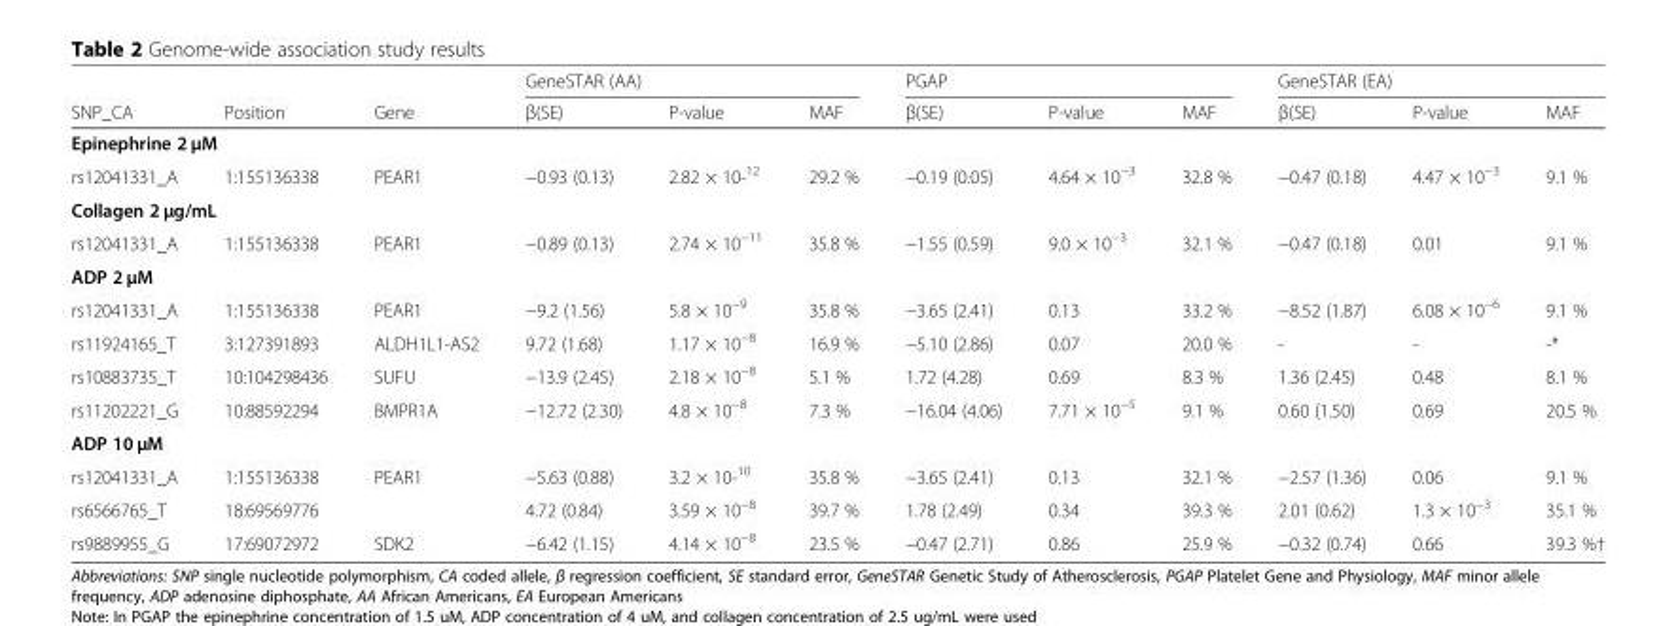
<table><thead><tr><td rowspan="2">SNP_CA</td><td rowspan="2">Position</td><td rowspan="2">Gene</td><td colspan="3">GeneSTAR (AA)</td><td colspan="3">PGAP</td><td colspan="3">GeneSTAR (EA)</td></tr><tr><td>β(SE)</td><td>P-value</td><td>MAF</td><td>β(SE)</td><td>P-value</td><td>MAF</td><td>β(SE)</td><td>P-value</td><td>MAF</td></tr></thead><tbody><tr><td colspan="12">Epinephrine 2 μM</td></tr><tr><td>rs12041331_A</td><td>1:155136338</td><td>PEAR1</td><td>−0.93 (0.13)</td><td>2.82 × 10-<sup>12</sup></td><td>29.2 %</td><td>−0.19 (0.05)</td><td>4.64 × 10<sup>−3</sup></td><td>32.8 %</td><td>−0.47 (0.18)</td><td>4.47 × 10<sup>−3</sup></td><td>9.1 %</td></tr><tr><td colspan="12">Collagen 2 μg/mL</td></tr><tr><td>rs12041331_A</td><td>1:155136338</td><td>PEAR1</td><td>−0.89 (0.13)</td><td>2.74 × 10<sup>−11</sup></td><td>35.8 %</td><td>−1.55 (0.59)</td><td>9.0 × 10<sup>−3</sup></td><td>32.1 %</td><td>−0.47 (0.18)</td><td>0.01</td><td>9.1 %</td></tr><tr><td colspan="12">ADP 2 μM</td></tr><tr><td>rs12041331_A</td><td>1:155136338</td><td>PEAR1</td><td>−9.2 (1.56)</td><td>5.8 × 10<sup>−9</sup></td><td>35.8 %</td><td>−3.65 (2.41)</td><td>0.13</td><td>33.2 %</td><td>−8.52 (1.87)</td><td>6.08 × 10<sup>−6</sup></td><td>9.1 %</td></tr><tr><td>rs11924165_T</td><td>3:127391893</td><td>ALDH1L1-AS2</td><td>9.72 (1.68)</td><td>1.17 × 10<sup>−8</sup></td><td>16.9 %</td><td>−5.10 (2.86)</td><td>0.07</td><td>20.0 %</td><td>-</td><td>-</td><td>-*</td></tr><tr><td>rs10883735_T</td><td>10:104298436</td><td>SUFU</td><td>−13.9 (2.45)</td><td>2.18 × 10<sup>−8</sup></td><td>5.1 %</td><td>1.72 (4.28)</td><td>0.69</td><td>8.3 %</td><td>1.36 (2.45)</td><td>0.48</td><td>8.1 %</td></tr><tr><td>rs11202221_G</td><td>10:88592294</td><td>BMPR1A</td><td>−12.72 (2.30)</td><td>4.8 × 10<sup>−8</sup></td><td>7.3 %</td><td>−16.04 (4.06)</td><td>7.71 × 10<sup>−5</sup></td><td>9.1 %</td><td>0.60 (1.50)</td><td>0.69</td><td>20.5 %</td></tr><tr><td colspan="12">ADP 10 μM</td></tr><tr><td>rs12041331_A</td><td>1:155136338</td><td>PEAR1</td><td>−5.63 (0.88)</td><td>3.2 × 10-<sup>10</sup></td><td>35.8 %</td><td>−3.65 (2.41)</td><td>0.13</td><td>32.1 %</td><td>−2.57 (1.36)</td><td>0.06</td><td>9.1 %</td></tr><tr><td>rs6566765_T</td><td>18:69569776</td><td></td><td>4.72 (0.84)</td><td>3.59 × 10<sup>−8</sup></td><td>39.7 %</td><td>1.78 (2.49)</td><td>0.34</td><td>39.3 %</td><td>2.01 (0.62)</td><td>1.3 × 10<sup>−3</sup></td><td>35.1 %</td></tr><tr><td>rs9889955_G</td><td>17:69072972</td><td>SDK2</td><td>−6.42 (1.15)</td><td>4.14 × 10<sup>−8</sup></td><td>23.5 %</td><td>−0.47 (2.71)</td><td>0.86</td><td>25.9 %</td><td>−0.32 (0.74)</td><td>0.66</td><td>39.3 %†</td></tr></tbody></table>